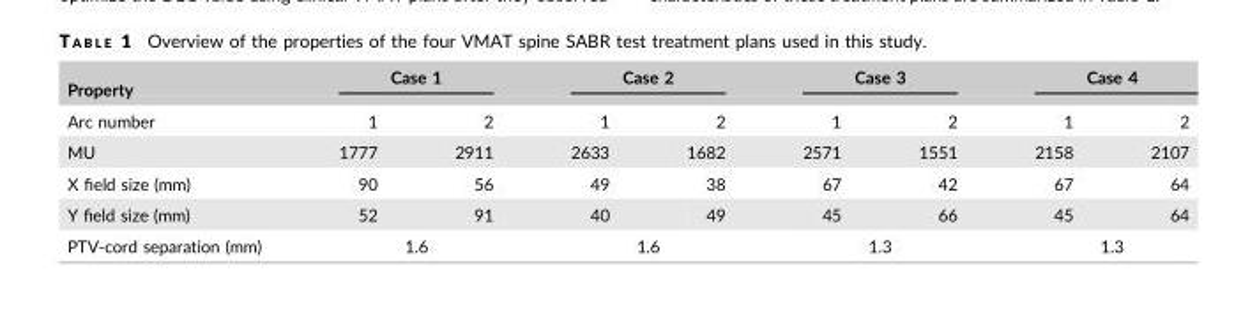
<table><thead><tr><td rowspan="2">Property Arc number</td><td colspan="2">Case 1</td><td colspan="2">Case 2</td><td colspan="2">Case 3</td><td colspan="2">Case 4</td></tr><tr><td>1</td><td>2</td><td>1</td><td>2</td><td>1</td><td>2</td><td>1</td><td>2</td></tr></thead><tbody><tr><td>MU</td><td>1777</td><td>2911</td><td>2633</td><td>1682</td><td>2571</td><td>1551</td><td>2158</td><td>2107</td></tr><tr><td>X field size (mm)</td><td>90</td><td>56</td><td>49</td><td>38</td><td>67</td><td>42</td><td>67</td><td>64</td></tr><tr><td>Y field size (mm)</td><td>52</td><td>91</td><td>40</td><td>49</td><td>45</td><td>66</td><td>45</td><td>64</td></tr><tr><td>PTV-cord separation (mm)</td><td colspan="2">1.6</td><td colspan="2">1.6</td><td colspan="2">1.3</td><td colspan="2">1.3</td></tr></tbody></table>